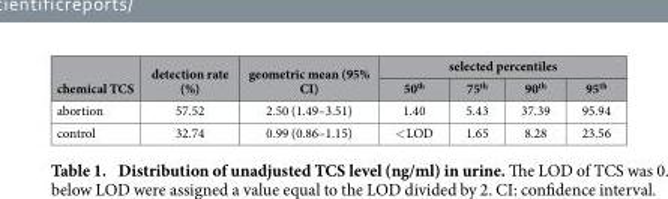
<table><thead><tr><td rowspan="2">chemical TCS</td><td rowspan="2">detection rate (%)</td><td rowspan="2">geometric mean (95% CI)</td><td colspan="4">selected percentiles</td></tr><tr><td>50<sup>th</sup></td><td>75<sup>th</sup></td><td>90<sup>th</sup></td><td>95<sup>th</sup></td></tr></thead><tbody><tr><td>abortion</td><td>57.52</td><td>2.50 (1.49–3.51)</td><td>1.40</td><td>5.43</td><td>37.39</td><td>95.94</td></tr><tr><td>control</td><td>32.74</td><td>0.99 (0.86–1.15)</td><td>&lt; LOD</td><td>1.65</td><td>8.28</td><td>23.56</td></tr></tbody></table>